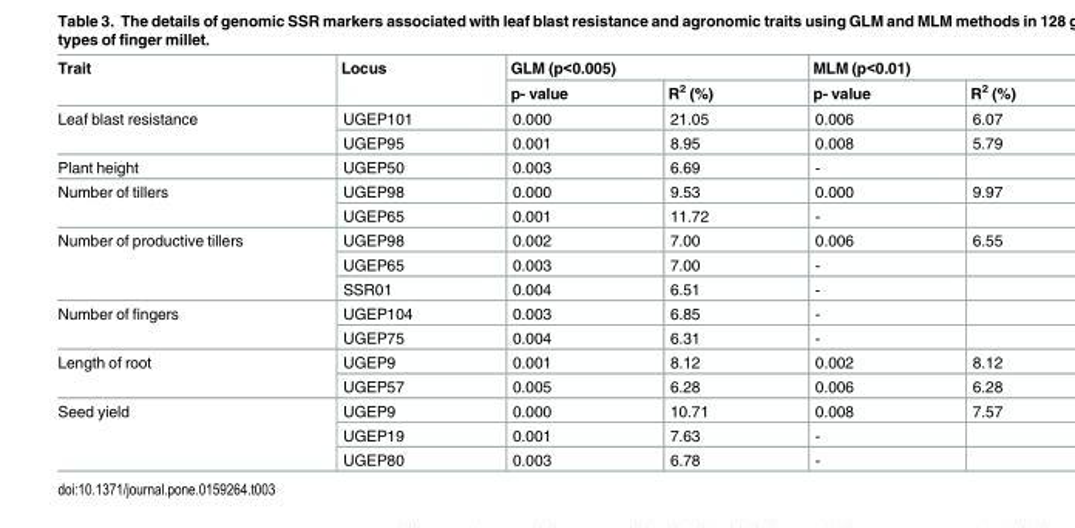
<table><thead><tr><td rowspan="2">Trait</td><td rowspan="2">Locus</td><td colspan="2">GLM (p&lt;0.005)</td><td colspan="2">MLM (p&lt;0.01)</td></tr><tr><td>p- value</td><td>R<sup>2</sup> (%)</td><td>p- value</td><td>R<sup>2</sup> (%)</td></tr></thead><tbody><tr><td rowspan="2">Leaf blast resistance</td><td>UGEP101</td><td>0.000</td><td>21.05</td><td>0.006</td><td>6.07</td></tr><tr><td>UGEP95</td><td>0.001</td><td>8.95</td><td>0.008</td><td>5.79</td></tr><tr><td>Plant height</td><td>UGEP50</td><td>0.003</td><td>6.69</td><td>-</td><td></td></tr><tr><td rowspan="2">Number of tillers</td><td>UGEP98</td><td>0.000</td><td>9.53</td><td>0.000</td><td>9.97</td></tr><tr><td>UGEP65</td><td>0.001</td><td>11.72</td><td>-</td><td></td></tr><tr><td rowspan="3">Number of productive tillers</td><td>UGEP98</td><td>0.002</td><td>7.00</td><td>0.006</td><td>6.55</td></tr><tr><td>UGEP65</td><td>0.003</td><td>7.00</td><td>-</td><td></td></tr><tr><td>SSR01</td><td>0.004</td><td>6.51</td><td>-</td><td></td></tr><tr><td rowspan="2">Number of fingers</td><td>UGEP104</td><td>0.003</td><td>6.85</td><td>-</td><td></td></tr><tr><td>UGEP75</td><td>0.004</td><td>6.31</td><td>-</td><td></td></tr><tr><td rowspan="2">Length of root</td><td>UGEP9</td><td>0.001</td><td>8.12</td><td>0.002</td><td>8.12</td></tr><tr><td>UGEP57</td><td>0.005</td><td>6.28</td><td>0.006</td><td>6.28</td></tr><tr><td rowspan="3">Seed yield</td><td>UGEP9</td><td>0.000</td><td>10.71</td><td>0.008</td><td>7.57</td></tr><tr><td>UGEP19</td><td>0.001</td><td>7.63</td><td>-</td><td></td></tr><tr><td>UGEP80</td><td>0.003</td><td>6.78</td><td>-</td><td></td></tr></tbody></table>